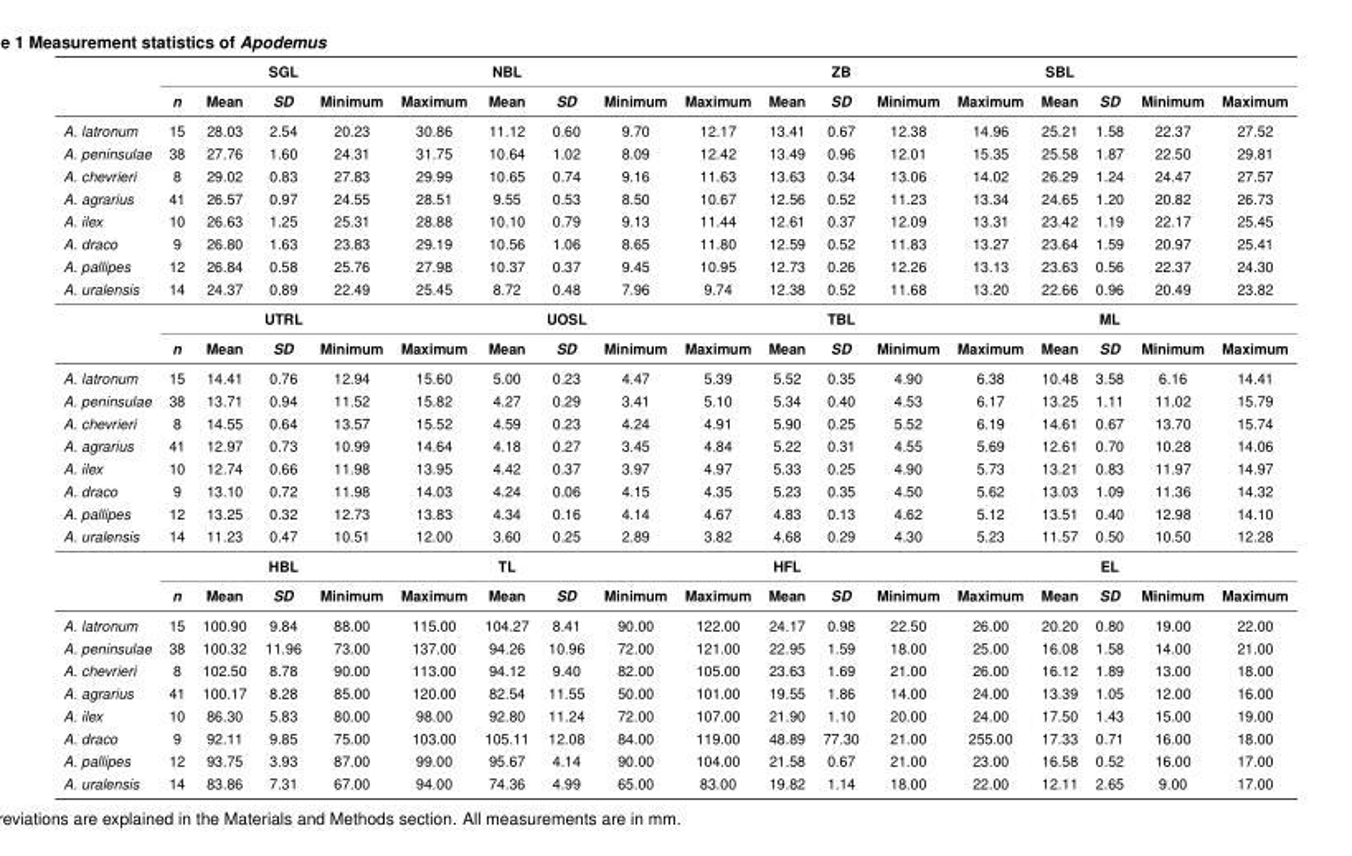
<table><thead><tr><td rowspan="2"></td><td rowspan="2">n</td><td colspan="4">SGL</td><td colspan="4">NBL</td><td colspan="4">ZB</td><td colspan="4">SBL</td></tr><tr><td>Mean</td><td>SD</td><td>Minimum</td><td>Maximum</td><td>Mean</td><td>SD</td><td>Minimum</td><td>Maximum</td><td>Mean</td><td>SD</td><td>Minimum</td><td>Maximum</td><td>Mean</td><td>SD</td><td>Minimum</td><td>Maximum</td></tr></thead><tbody><tr><td>A. latronum</td><td>15</td><td>28.03</td><td>2.54</td><td>20.23</td><td>30.86</td><td>11.12</td><td>0.60</td><td>9.70</td><td>12.17</td><td>13.41</td><td>0.67</td><td>12.38</td><td>14.96</td><td>25.21</td><td>1.58</td><td>22.37</td><td>27.52</td></tr><tr><td>A. peninsulae</td><td>38</td><td>27.76</td><td>1.60</td><td>24.31</td><td>31.75</td><td>10.64</td><td>1.02</td><td>8.09</td><td>12.42</td><td>13.49</td><td>0.96</td><td>12.01</td><td>15.35</td><td>25.58</td><td>1.87</td><td>22.50</td><td>29.81</td></tr><tr><td>A. chevrieri</td><td>8</td><td>29.02</td><td>0.83</td><td>27.83</td><td>29.99</td><td>10.65</td><td>0.74</td><td>9.16</td><td>11.63</td><td>13.63</td><td>0.34</td><td>13.06</td><td>14.02</td><td>26.29</td><td>1.24</td><td>24.47</td><td>27.57</td></tr><tr><td>A. agrarius</td><td>41</td><td>26.57</td><td>0.97</td><td>24.55</td><td>28.51</td><td>9.55</td><td>0.53</td><td>8.50</td><td>10.67</td><td>12.56</td><td>0.52</td><td>11.23</td><td>13.34</td><td>24.65</td><td>1.20</td><td>20.82</td><td>26.73</td></tr><tr><td>A. ilex</td><td>10</td><td>26.63</td><td>1.25</td><td>25.31</td><td>28.88</td><td>10.10</td><td>0.79</td><td>9.13</td><td>11.44</td><td>12.61</td><td>0.37</td><td>12.09</td><td>13.31</td><td>23.42</td><td>1.19</td><td>22.17</td><td>25.45</td></tr><tr><td>A. draco</td><td>9</td><td>26.80</td><td>1.63</td><td>23.83</td><td>29.19</td><td>10.56</td><td>1.06</td><td>8.65</td><td>11.80</td><td>12.59</td><td>0.52</td><td>11.83</td><td>13.27</td><td>23.64</td><td>1.59</td><td>20.97</td><td>25.41</td></tr><tr><td>A. pallipes</td><td>12</td><td>26.84</td><td>0.58</td><td>25.76</td><td>27.98</td><td>10.37</td><td>0.37</td><td>9.45</td><td>10.95</td><td>12.73</td><td>0.26</td><td>12.26</td><td>13.13</td><td>23.63</td><td>0.56</td><td>22.37</td><td>24.30</td></tr><tr><td rowspan="3">A. uralensis</td><td>14</td><td>24.37</td><td>0.89</td><td>22.49</td><td>25.45</td><td>8.72</td><td>0.48</td><td>7.96</td><td>9.74</td><td>12.38</td><td>0.52</td><td>11.68</td><td>13.20</td><td>22.66</td><td>0.96</td><td>20.49</td><td>23.82</td></tr><tr><td></td><td colspan="4">UTRL</td><td colspan="4">UOSL</td><td colspan="4">TBL</td><td colspan="4">ML</td></tr><tr><td>n</td><td>Mean</td><td>SD</td><td>Minimum</td><td>Maximum</td><td>Mean</td><td>SD</td><td>Minimum</td><td>Maximum</td><td>Mean</td><td>SD</td><td>Minimum</td><td>Maximum</td><td>Mean</td><td>SD</td><td>Minimum</td><td>Maximum</td></tr><tr><td>A. latronum</td><td>15</td><td>14.41</td><td>0.76</td><td>12.94</td><td>15.60</td><td>5.00</td><td>0.23</td><td>4.47</td><td>5.39</td><td>5.52</td><td>0.35</td><td>4.90</td><td>6.38</td><td>10.48</td><td>3.58</td><td>6.16</td><td>14.41</td></tr><tr><td>A. peninsulae</td><td>38</td><td>13.71</td><td>0.94</td><td>11.52</td><td>15.82</td><td>4.27</td><td>0.29</td><td>3.41</td><td>5.10</td><td>5.34</td><td>0.40</td><td>4.53</td><td>6.17</td><td>13.25</td><td>1.11</td><td>11.02</td><td>15.79</td></tr><tr><td>A. chevrieri</td><td>8</td><td>14.55</td><td>0.64</td><td>13.57</td><td>15.52</td><td>4.59</td><td>0.23</td><td>4.24</td><td>4.91</td><td>5.90</td><td>0.25</td><td>5.52</td><td>6.19</td><td>14.61</td><td>0.67</td><td>13.70</td><td>15.74</td></tr><tr><td>A. agrarius</td><td>41</td><td>12.97</td><td>0.73</td><td>10.99</td><td>14.64</td><td>4.18</td><td>0.27</td><td>3.45</td><td>4.84</td><td>5.22</td><td>0.31</td><td>4.55</td><td>5.69</td><td>12.61</td><td>0.70</td><td>10.28</td><td>14.06</td></tr><tr><td>A. ilex</td><td>10</td><td>12.74</td><td>0.66</td><td>11.98</td><td>13.95</td><td>4.42</td><td>0.37</td><td>3.97</td><td>4.97</td><td>5.33</td><td>0.25</td><td>4.90</td><td>5.73</td><td>13.21</td><td>0.83</td><td>11.97</td><td>14.97</td></tr><tr><td>A. draco</td><td>9</td><td>13.10</td><td>0.72</td><td>11.98</td><td>14.03</td><td>4.24</td><td>0.06</td><td>4.15</td><td>4.35</td><td>5.23</td><td>0.35</td><td>4.50</td><td>5.62</td><td>13.03</td><td>1.09</td><td>11.36</td><td>14.32</td></tr><tr><td>A. pallipes</td><td>12</td><td>13.25</td><td>0.32</td><td>12.73</td><td>13.83</td><td>4.34</td><td>0.16</td><td>4.14</td><td>4.67</td><td>4.83</td><td>0.13</td><td>4.62</td><td>5.12</td><td>13.51</td><td>0.40</td><td>12.98</td><td>14.10</td></tr><tr><td rowspan="3">A. uralensis</td><td>14</td><td>11.23</td><td>0.47</td><td>10.51</td><td>12.00</td><td>3.60</td><td>0.25</td><td>2.89</td><td>3.82</td><td>4.68</td><td>0.29</td><td>4.30</td><td>5.23</td><td>11.57</td><td>0.50</td><td>10.50</td><td>12.28</td></tr><tr><td></td><td colspan="4">HBL</td><td colspan="4">TL</td><td colspan="4">HFL</td><td colspan="4">EL</td></tr><tr><td>n</td><td>Mean</td><td>SD</td><td>Minimum</td><td>Maximum</td><td>Mean</td><td>SD</td><td>Minimum</td><td>Maximum</td><td>Mean</td><td>SD</td><td>Minimum</td><td>Maximum</td><td>Mean</td><td>SD</td><td>Minimum</td><td>Maximum</td></tr><tr><td>A. latronum</td><td>15</td><td>100.90</td><td>9.84</td><td>88.00</td><td>115.00</td><td>104.27</td><td>8.41</td><td>90.00</td><td>122.00</td><td>24.17</td><td>0.98</td><td>22.50</td><td>26.00</td><td>20.20</td><td>0.80</td><td>19.00</td><td>22.00</td></tr><tr><td>A. peninsulae</td><td>38</td><td>100.32</td><td>11.96</td><td>73.00</td><td>137.00</td><td>94.26</td><td>10.96</td><td>72.00</td><td>121.00</td><td>22.95</td><td>1.59</td><td>18.00</td><td>25.00</td><td>16.08</td><td>1.58</td><td>14.00</td><td>21.00</td></tr><tr><td>A. chevrieri</td><td>8</td><td>102.50</td><td>8.78</td><td>90.00</td><td>113.00</td><td>94.12</td><td>9.40</td><td>82.00</td><td>105.00</td><td>23.63</td><td>1.69</td><td>21.00</td><td>26.00</td><td>16.12</td><td>1.89</td><td>13.00</td><td>18.00</td></tr><tr><td>A. agrarius</td><td>41</td><td>100.17</td><td>8.28</td><td>85.00</td><td>120.00</td><td>82.54</td><td>11.55</td><td>50.00</td><td>101.00</td><td>19.55</td><td>1.86</td><td>14.00</td><td>24.00</td><td>13.39</td><td>1.05</td><td>12.00</td><td>16.00</td></tr><tr><td>A. ilex</td><td>10</td><td>86.30</td><td>5.83</td><td>80.00</td><td>98.00</td><td>92.80</td><td>11.24</td><td>72.00</td><td>107.00</td><td>21.90</td><td>1.10</td><td>20.00</td><td>24.00</td><td>17.50</td><td>1.43</td><td>15.00</td><td>19.00</td></tr><tr><td>A. draco</td><td>9</td><td>92.11</td><td>9.85</td><td>75.00</td><td>103.00</td><td>105.11</td><td>12.08</td><td>84.00</td><td>119.00</td><td>48.89</td><td>77.30</td><td>21.00</td><td>255.00</td><td>17.33</td><td>0.71</td><td>16.00</td><td>18.00</td></tr><tr><td>A. pallipes</td><td>12</td><td>93.75</td><td>3.93</td><td>87.00</td><td>99.00</td><td>95.67</td><td>4.14</td><td>90.00</td><td>104.00</td><td>21.58</td><td>0.67</td><td>21.00</td><td>23.00</td><td>16.58</td><td>0.52</td><td>16.00</td><td>17.00</td></tr><tr><td>A. uralensis</td><td>14</td><td>83.86</td><td>7.31</td><td>67.00</td><td>94.00</td><td>74.36</td><td>4.99</td><td>65.00</td><td>83.00</td><td>19.82</td><td>1.14</td><td>18.00</td><td>22.00</td><td>12.11</td><td>2.65</td><td>9.00</td><td>17.00</td></tr></tbody></table>